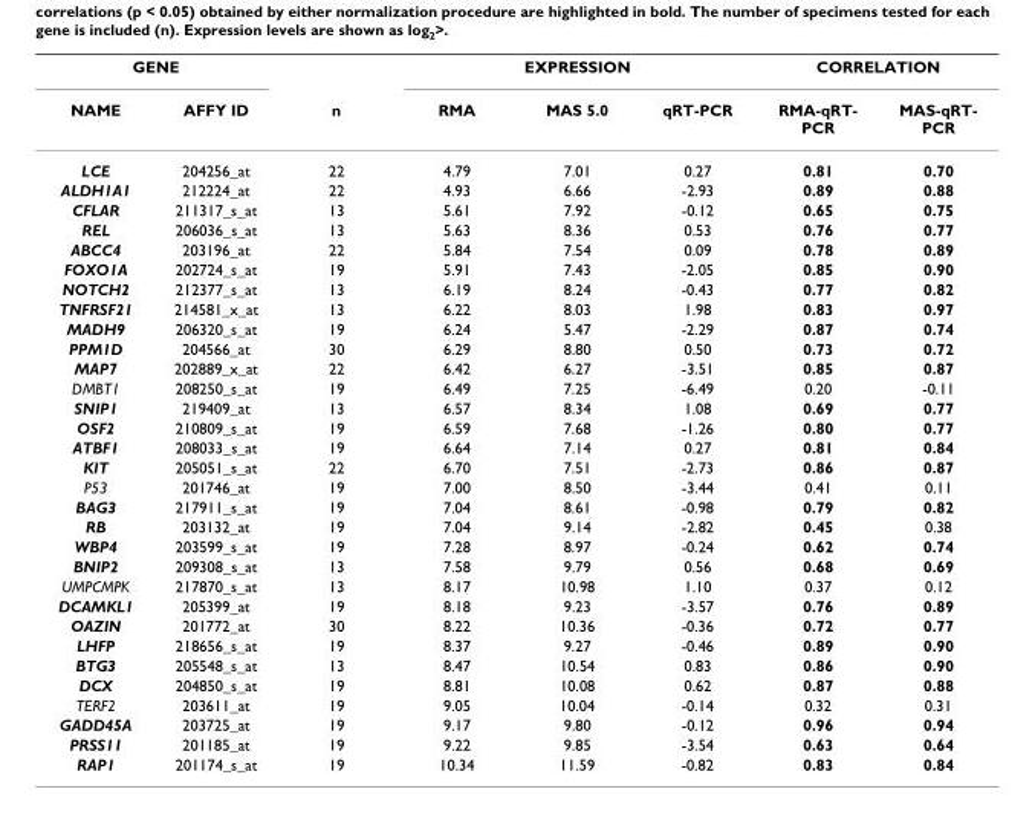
<table><thead><tr><td colspan="2">GENE</td><td rowspan="2">n</td><td colspan="3">EXPRESSION</td><td colspan="2">CORRELATION</td></tr><tr><td>NAME</td><td>AFFY ID</td><td>RMA</td><td>MAS 5.0</td><td>qRT-PCR</td><td>RMA-qRT- PCR</td><td>MAS-qRT- PCR</td></tr></thead><tbody><tr><td>LCE</td><td>204256_at</td><td>22</td><td>4.79</td><td>7.01</td><td>0.27</td><td>0.81</td><td>0.70</td></tr><tr><td>ALDH1A1</td><td>212224_at</td><td>22</td><td>4.93</td><td>6.66</td><td>-2.93</td><td>0.89</td><td>0.88</td></tr><tr><td>CFLAR</td><td>211317_s_at</td><td>13</td><td>5.61</td><td>7.92</td><td>-0.12</td><td>0.65</td><td>0.75</td></tr><tr><td>REL</td><td>206036_s_at</td><td>13</td><td>5.63</td><td>8.36</td><td>0.53</td><td>0.76</td><td>0.77</td></tr><tr><td>ABCC4</td><td>203196_at</td><td>22</td><td>5.84</td><td>7.54</td><td>0.09</td><td>0.78</td><td>0.89</td></tr><tr><td>FOXO1A</td><td>202724_s_at</td><td>19</td><td>5.91</td><td>7.43</td><td>-2.05</td><td>0.85</td><td>0.90</td></tr><tr><td>NOTCH2</td><td>212377_s_at</td><td>13</td><td>6.19</td><td>8.24</td><td>-0.43</td><td>0.77</td><td>0.82</td></tr><tr><td>TNFRSF21</td><td>214581_x_at</td><td>13</td><td>6.22</td><td>8.03</td><td>1.98</td><td>0.83</td><td>0.97</td></tr><tr><td>MADH9</td><td>206320_s_at</td><td>19</td><td>6.24</td><td>5.47</td><td>-2.29</td><td>0.87</td><td>0.74</td></tr><tr><td>PPM1D</td><td>204566_at</td><td>30</td><td>6.29</td><td>8.80</td><td>0.50</td><td>0.73</td><td>0.72</td></tr><tr><td>MAP7</td><td>202889_x_at</td><td>22</td><td>6.42</td><td>6.27</td><td>-3.51</td><td>0.85</td><td>0.87</td></tr><tr><td>DMBT1</td><td>208250_s_at</td><td>19</td><td>6.49</td><td>7.25</td><td>-6.49</td><td>0.20</td><td>-0.11</td></tr><tr><td>SNIP1</td><td>219409_at</td><td>13</td><td>6.57</td><td>8.34</td><td>1.08</td><td>0.69</td><td>0.77</td></tr><tr><td>OSF2</td><td>210809_s_at</td><td>19</td><td>6.59</td><td>7.68</td><td>-1.26</td><td>0.80</td><td>0.77</td></tr><tr><td>ATBF1</td><td>208033_s_at</td><td>19</td><td>6.64</td><td>7.14</td><td>0.27</td><td>0.81</td><td>0.84</td></tr><tr><td>KIT</td><td>205051_s_at</td><td>22</td><td>6.70</td><td>7.51</td><td>-2.73</td><td>0.86</td><td>0.87</td></tr><tr><td>P53</td><td>201746_at</td><td>19</td><td>7.00</td><td>8.50</td><td>-3.44</td><td>0.41</td><td>0.11</td></tr><tr><td>BAG3</td><td>217911_s_at</td><td>19</td><td>7.04</td><td>8.61</td><td>-0.98</td><td>0.79</td><td>0.82</td></tr><tr><td>RB</td><td>203132_at</td><td>19</td><td>7.04</td><td>9.14</td><td>-2.82</td><td>0.45</td><td>0.38</td></tr><tr><td>WBP4</td><td>203599_s_at</td><td>19</td><td>7.28</td><td>8.97</td><td>-0.24</td><td>0.62</td><td>0.74</td></tr><tr><td>BNIP2</td><td>209308_s_at</td><td>13</td><td>7.58</td><td>9.79</td><td>0.56</td><td>0.68</td><td>0.69</td></tr><tr><td>UMPCMPK</td><td>217870_s_at</td><td>13</td><td>8.17</td><td>10.98</td><td>1.10</td><td>0.37</td><td>0.12</td></tr><tr><td>DCAMKL1</td><td>205399_at</td><td>19</td><td>8.18</td><td>9.23</td><td>-3.57</td><td>0.76</td><td>0.89</td></tr><tr><td>OAZIN</td><td>201772_at</td><td>30</td><td>8.22</td><td>10.36</td><td>-0.36</td><td>0.72</td><td>0.77</td></tr><tr><td>LHFP</td><td>218656_s_at</td><td>19</td><td>8.37</td><td>9.27</td><td>-0.46</td><td>0.89</td><td>0.90</td></tr><tr><td>BTG3</td><td>205548_s_at</td><td>13</td><td>8.47</td><td>10.54</td><td>0.83</td><td>0.86</td><td>0.90</td></tr><tr><td>DCX</td><td>204850_s_at</td><td>19</td><td>8.81</td><td>10.08</td><td>0.62</td><td>0.87</td><td>0.88</td></tr><tr><td>TERF2</td><td>203611_at</td><td>19</td><td>9.05</td><td>10.04</td><td>-0.14</td><td>0.32</td><td>0.31</td></tr><tr><td>GADD45A</td><td>203725_at</td><td>19</td><td>9.17</td><td>9.80</td><td>-0.12</td><td>0.96</td><td>0.94</td></tr><tr><td>PRSS11</td><td>201185_at</td><td>19</td><td>9.22</td><td>9.85</td><td>-3.54</td><td>0.63</td><td>0.64</td></tr><tr><td>RAP1</td><td>201174_s_at</td><td>19</td><td>10.34</td><td>11.59</td><td>-0.82</td><td>0.83</td><td>0.84</td></tr></tbody></table>